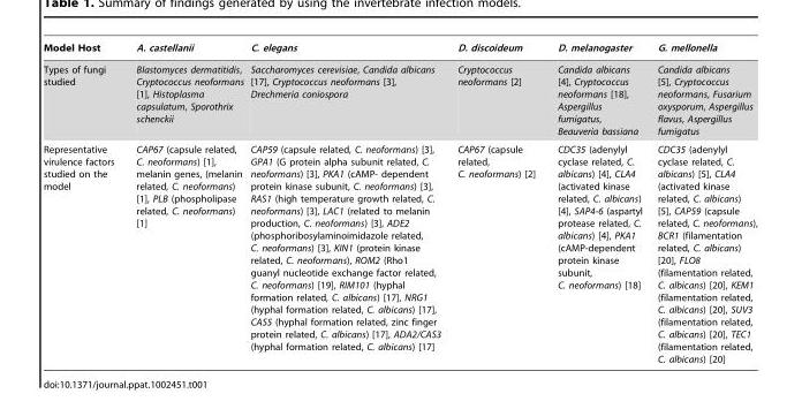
<table><thead><tr><td>Model Host</td><td>A. castellanii</td><td>C. elegans</td><td>D. discoideum</td><td>D. melanogaster</td><td>G. mellonella</td></tr></thead><tbody><tr><td>Types of fungi studied</td><td>Blastomyces dermatitidis, Cryptococcus neoformans [1], Histoplasma capsulatum, Sporothrix schenckii</td><td>Saccharomyces cerevisiae, Candida albicans [17], Cryptococcus neoformans [3], Drechmeria coniospora</td><td>Cryptococcus neoformans [2]</td><td>Candida albicans [4], Cryptococcus neoformans [18], Aspergillus fumigatus, Beauveria bassiana</td><td>Candida albicans [5], Cryptococcus neoformans, Fusarium oxysporum, Aspergillus flavus, Aspergillus fumigatus</td></tr><tr><td>Representative virulence factors studied on the model</td><td>CAP67 (capsule related, C. neoformans) [1], melanin genes, (melanin related, C. neoformans) [1], PLB (phospholipase related, C. neoformans) [1]</td><td>CAP59 (capsule related, C. neoformans) [3], GPA1 (G protein alpha subunit related, C. neoformans) [3], PKA1 (cAMP- dependent protein kinase subunit, C. neoformans) [3], RAS1 (high temperature growth related, C. neoformans) [3], LAC1 (related to melanin production, C. neoformans) [3], ADE2 (phosphoribosylaminoimidazole related, C. neoformans) [3], KIN1 (protein kinase related, C. neoformans), ROM2 (Rho1 guanyl nucleotide exchange factor related, C. neoformans) [19], RIM101 (hyphal formation related, C. albicans) [17], NRG1 (hyphal formation related, C. albicans) [17], CAS5 (hyphal formation related, zinc finger protein related, C. albicans) [17], ADA2/CAS3 (hyphal formation related, C. albicans) [17]</td><td>CAP67 (capsule related, C. neoformans) [2]</td><td>CDC35 (adenylyl cyclase related, C. albicans) [4], CLA4 (activated kinase related, C. albicans) [4], SAP4-6 (aspartyl protease related, C. albicans) [4], PKA1 (cAMP-dependent protein kinase subunit, C. neoformans) [18]</td><td>CDC35 (adenylyl cyclase related, C. albicans) [5], CLA4 (activated kinase related, C. albicans) [5], CAP59 (capsule related, C. neoformans), BCR1 (filamentation related, C. albicans) [20], FLO8 (filamentation related, C. albicans) [20], KEM1 (filamentation related, C. albicans) [20], SUV3 (filamentation related, C. albicans) [20], TEC1 (filamentation related, C. albicans) [20]</td></tr></tbody></table>